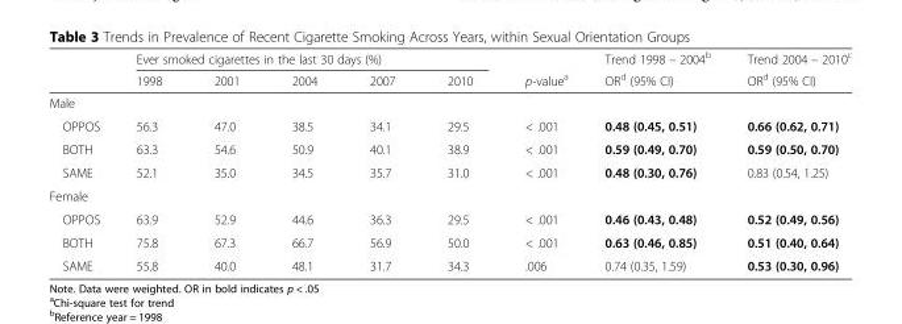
<table><thead><tr><td rowspan="2"></td><td colspan="5">Ever smoked cigarettes in the last 30 days (%)</td><td rowspan="2">p-value<sup>a</sup></td><td rowspan="2">Trend 1998 – 2004<sup>b</sup> OR<sup>d</sup> (95% CI)</td><td rowspan="2">Trend 2004 – 2010<sup>c</sup> OR<sup>d</sup> (95% CI)</td></tr><tr><td>1998</td><td>2001</td><td>2004</td><td>2007</td><td>2010</td></tr></thead><tbody><tr><td colspan="9">Male</td></tr><tr><td>OPPOS</td><td>56.3</td><td>47.0</td><td>38.5</td><td>34.1</td><td>29.5</td><td>&lt; .001</td><td>0.48 (0.45, 0.51)</td><td>0.66 (0.62, 0.71)</td></tr><tr><td>BOTH</td><td>63.3</td><td>54.6</td><td>50.9</td><td>40.1</td><td>38.9</td><td>&lt; .001</td><td>0.59 (0.49, 0.70)</td><td>0.59 (0.50, 0.70)</td></tr><tr><td>SAME</td><td>52.1</td><td>35.0</td><td>34.5</td><td>35.7</td><td>31.0</td><td>&lt; .001</td><td>0.48 (0.30, 0.76)</td><td>0.83 (0.54, 1.25)</td></tr><tr><td colspan="9">Female</td></tr><tr><td>OPPOS</td><td>63.9</td><td>52.9</td><td>44.6</td><td>36.3</td><td>29.5</td><td>&lt; .001</td><td>0.46 (0.43, 0.48)</td><td>0.52 (0.49, 0.56)</td></tr><tr><td>BOTH</td><td>75.8</td><td>67.3</td><td>66.7</td><td>56.9</td><td>50.0</td><td>&lt; .001</td><td>0.63 (0.46, 0.85)</td><td>0.51 (0.40, 0.64)</td></tr><tr><td>SAME</td><td>55.8</td><td>40.0</td><td>48.1</td><td>31.7</td><td>34.3</td><td>.006</td><td>0.74 (0.35, 1.59)</td><td>0.53 (0.30, 0.96)</td></tr></tbody></table>